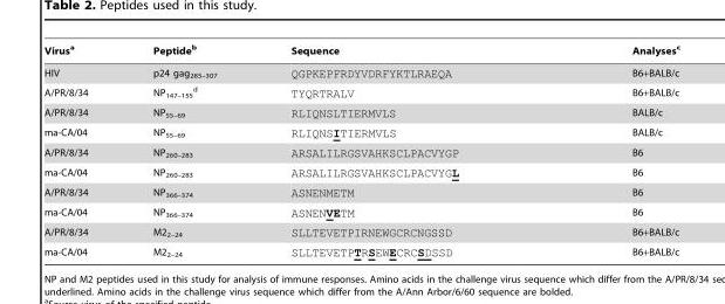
<table><thead><tr><td>Virus<sup>a</sup></td><td>Peptide<sup>b</sup></td><td>Sequence</td><td>Analyses<sup>c</sup></td></tr></thead><tbody><tr><td>HIV</td><td>p24 gag<sub>285–307</sub></td><td>QGPKEPFRDYVDRFYKTLRAEQA</td><td>B6+BALB/c</td></tr><tr><td>A/PR/8/34</td><td>NP<sub>147–155</sub> d</td><td>TYQRTRALV</td><td>B6+BALB/c</td></tr><tr><td>A/PR/8/34</td><td>NP<sub>55–69</sub></td><td>RLIQNSLTIERMVLS</td><td>BALB/c</td></tr><tr><td>ma-CA/04</td><td>NP<sub>55–69</sub></td><td>RLIQNSITIERMVLS</td><td>BALB/c</td></tr><tr><td>A/PR/8/34</td><td>NP<sub>260–283</sub></td><td>ARSALILRGSVAHKSCLPACVYGP</td><td>B6</td></tr><tr><td>ma-CA/04</td><td>NP<sub>260–283</sub></td><td>ARSALILRGSVAHKSCLPACVYGL</td><td>B6</td></tr><tr><td>A/PR/8/34</td><td>NP<sub>366–374</sub></td><td>ASNENMETM</td><td>B6</td></tr><tr><td>ma-CA/04</td><td>NP<sub>366–374</sub></td><td>ASNENVETM</td><td>B6</td></tr><tr><td>A/PR/8/34</td><td>M2<sub>2–24</sub></td><td>SLLTEVETPIRNEWGCRCNGSSD</td><td>B6+BALB/c</td></tr><tr><td>ma-CA/04</td><td>M2<sub>2–24</sub></td><td>SLLTEVETPTRSEWECRCSDSSD</td><td>B6+BALB/c</td></tr></tbody></table>